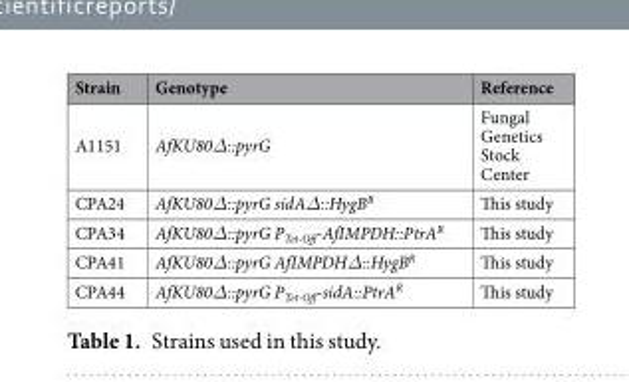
<table><thead><tr><td>Strain</td><td>Genotype</td><td>Reference</td></tr></thead><tbody><tr><td>A1151</td><td>AfKU80Δ::pyrG</td><td>Fungal Genetics Stock Center</td></tr><tr><td>CPA24</td><td>AfKU80Δ::pyrG sidAΔ::HygB<sup>R</sup></td><td>This study</td></tr><tr><td>CPA34</td><td>AfKU80Δ::pyrG P<sub>Tet-Off</sub>-AfIMPDH::PtrA<sup>R</sup></td><td>This study</td></tr><tr><td>CPA41</td><td>AfKU80Δ::pyrG AfIMPDHΔ::HygB<sup>R</sup></td><td>This study</td></tr><tr><td>CPA44</td><td>AfKU80Δ::pyrG P<sub>Tet-Off</sub>-sidA::PtrA<sup>R</sup></td><td>This study</td></tr></tbody></table>